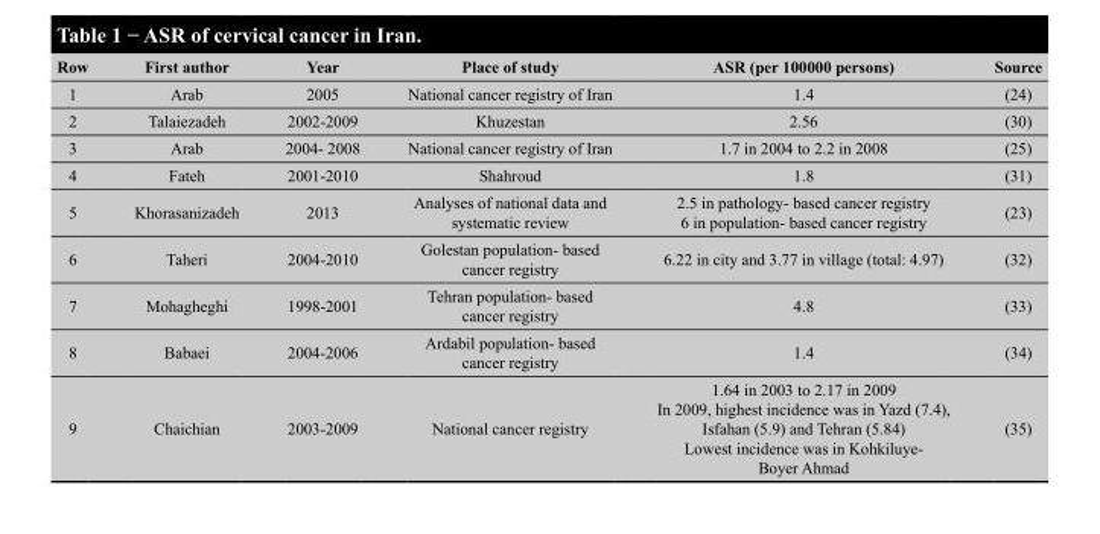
<table><thead><tr><td>Row</td><td>First author</td><td>Year</td><td>Place of study</td><td>ASR (per 100000 persons)</td><td>Source</td></tr></thead><tbody><tr><td>1</td><td>Arab</td><td>2005</td><td>National cancer registry of Iran</td><td>1.4</td><td>(24)</td></tr><tr><td>2</td><td>Talaiezadeh</td><td>2002-2009</td><td>Khuzestan</td><td>2.56</td><td>(30)</td></tr><tr><td>3</td><td>Arab</td><td>2004- 2008</td><td>National cancer registry of Iran</td><td>1.7 in 2004 to 2.2 in 2008</td><td>(25)</td></tr><tr><td>4</td><td>Fateh</td><td>2001-2010</td><td>Shahroud</td><td>1.8</td><td>(31)</td></tr><tr><td>5</td><td>Khorasanizadeh</td><td>2013</td><td>Analyses of national data and systematic review</td><td>2.5 in pathology- based cancer registry 6 in population- based cancer registry</td><td>(23)</td></tr><tr><td>6</td><td>Taheri</td><td>2004-2010</td><td>Golestan population- based cancer registry</td><td>6.22 in city and 3.77 in village (total: 4.97)</td><td>(32)</td></tr><tr><td>7</td><td>Mohagheghi</td><td>1998-2001</td><td>Tehran population- based cancer registry</td><td>4.8</td><td>(33)</td></tr><tr><td>8</td><td>Babaei</td><td>2004-2006</td><td>Ardabil population- based cancer registry</td><td>1.4</td><td>(34)</td></tr><tr><td>9</td><td>Chaichian</td><td>2003-2009</td><td>National cancer registry</td><td>1.64 in 2003 to 2.17 in 2009 In 2009, highest incidence was in Yazd (7.4), Isfahan (5.9) and Tehran (5.84) Lowest incidence was in Kohkiluye- Boyer Ahmad</td><td>(35)</td></tr></tbody></table>